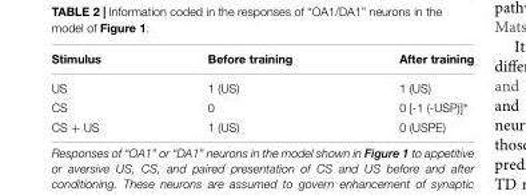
<table><thead><tr><td>Stimulus</td><td>Before training</td><td>After training</td></tr></thead><tbody><tr><td>US</td><td>1 (US)</td><td>1 (US)</td></tr><tr><td>CS</td><td>0</td><td>0 [-1 (-USP)]∗</td></tr><tr><td>CS + US</td><td>1 (US)</td><td>0 (USPE)</td></tr></tbody></table>